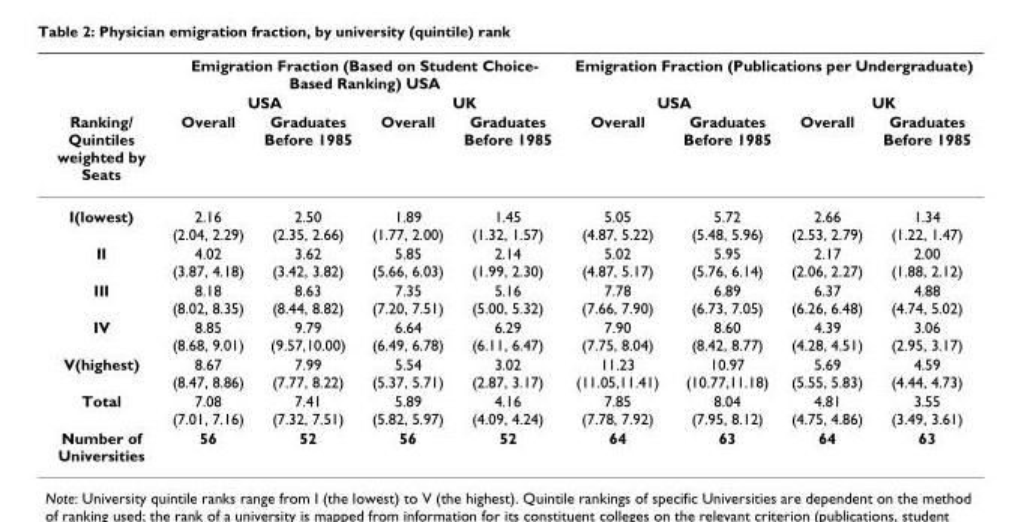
<table><thead><tr><td rowspan="3">Ranking/ Quintiles weighted by Seats</td><td colspan="4">Emigration Fraction (Based on Student Choice- Based Ranking) USA</td><td colspan="4">Emigration Fraction (Publications per Undergraduate)</td></tr><tr><td colspan="2">USA</td><td colspan="2">UK</td><td colspan="2">USA</td><td colspan="2">UK</td></tr><tr><td>Overall</td><td>Graduates Before 1985</td><td>Overall</td><td>Graduates Before 1985</td><td>Overall</td><td>Graduates Before 1985</td><td>Overall</td><td>Graduates Before 1985</td></tr></thead><tbody><tr><td>I(lowest)</td><td>2.16 (2.04, 2.29)</td><td>2.50 (2.35, 2.66)</td><td>1.89 (1.77, 2.00)</td><td>1.45 (1.32, 1.57)</td><td>5.05 (4.87, 5.22)</td><td>5.72 (5.48, 5.96)</td><td>2.66 (2.53, 2.79)</td><td>1.34 (1.22, 1.47)</td></tr><tr><td>II</td><td>4.02 (3.87, 4.18)</td><td>3.62 (3.42, 3.82)</td><td>5.85 (5.66, 6.03)</td><td>2.14 (1.99, 2.30)</td><td>5.02 (4.87, 5.17)</td><td>5.95 (5.76, 6.14)</td><td>2.17 (2.06, 2.27)</td><td>2.00 (1.88, 2.12)</td></tr><tr><td>III</td><td>8.18 (8.02, 8.35)</td><td>8.63 (8.44, 8.82)</td><td>7.35 (7.20, 7.51)</td><td>5.16 (5.00, 5.32)</td><td>7.78 (7.66, 7.90)</td><td>6.89 (6.73, 7.05)</td><td>6.37 (6.26, 6.48)</td><td>4.88 (4.74, 5.02)</td></tr><tr><td>IV</td><td>8.85 (8.68, 9.01)</td><td>9.79 (9.57,10.00)</td><td>6.64 (6.49, 6.78)</td><td>6.29 (6.11, 6.47)</td><td>7.90 (7.75, 8.04)</td><td>8.60 (8.42, 8.77)</td><td>4.39 (4.28, 4.51)</td><td>3.06 (2.95, 3.17)</td></tr><tr><td>V(highest)</td><td>8.67 (8.47, 8.86)</td><td>7.99 (7.77, 8.22)</td><td>5.54 (5.37, 5.71)</td><td>3.02 (2.87, 3.17)</td><td>11.23 (11.05,11.41)</td><td>10.97 (10.77,11.18)</td><td>5.69 (5.55, 5.83)</td><td>4.59 (4.44, 4.73)</td></tr><tr><td>Total</td><td>7.08 (7.01, 7.16)</td><td>7.41 (7.32, 7.51)</td><td>5.89 (5.82, 5.97)</td><td>4.16 (4.09, 4.24)</td><td>7.85 (7.78, 7.92)</td><td>8.04 (7.95, 8.12)</td><td>4.81 (4.75, 4.86)</td><td>3.55 (3.49, 3.61)</td></tr><tr><td>Number of Universities</td><td>56</td><td>52</td><td>56</td><td>52</td><td>64</td><td>63</td><td>64</td><td>63</td></tr></tbody></table>